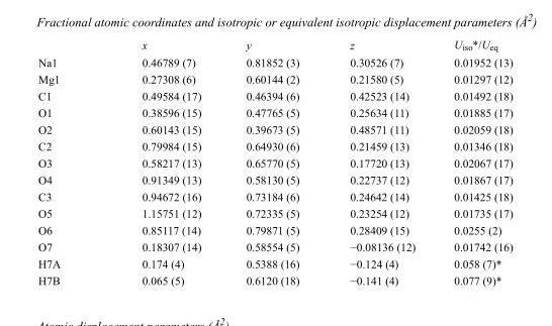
<table><thead><tr><td></td><td>x</td><td>y</td><td>z</td><td>U<sub>iso</sub>*/U<sub>eq</sub></td></tr></thead><tbody><tr><td>Na1</td><td>0.46789 (7)</td><td>0.81852 (3)</td><td>0.30526 (7)</td><td>0.01952 (13)</td></tr><tr><td>Mg1</td><td>0.27308 (6)</td><td>0.60144 (2)</td><td>0.21580 (5)</td><td>0.01297 (12)</td></tr><tr><td>C1</td><td>0.49584 (17)</td><td>0.46394 (6)</td><td>0.42523 (14)</td><td>0.01492 (18)</td></tr><tr><td>O1</td><td>0.38596 (15)</td><td>0.47765 (5)</td><td>0.25634 (11)</td><td>0.01885 (17)</td></tr><tr><td>O2</td><td>0.60143 (15)</td><td>0.39673 (5)</td><td>0.48571 (11)</td><td>0.02059 (18)</td></tr><tr><td>C2</td><td>0.79984 (15)</td><td>0.64930 (6)</td><td>0.21459 (13)</td><td>0.01346 (18)</td></tr><tr><td>O3</td><td>0.58217 (13)</td><td>0.65770 (5)</td><td>0.17720 (13)</td><td>0.02067 (17)</td></tr><tr><td>O4</td><td>0.91349 (13)</td><td>0.58130 (5)</td><td>0.22737 (12)</td><td>0.01867 (17)</td></tr><tr><td>C3</td><td>0.94672 (16)</td><td>0.73184 (6)</td><td>0.24642 (14)</td><td>0.01425 (18)</td></tr><tr><td>O5</td><td>1.15751 (12)</td><td>0.72335 (5)</td><td>0.23254 (12)</td><td>0.01735 (17)</td></tr><tr><td>O6</td><td>0.85117 (14)</td><td>0.79871 (5)</td><td>0.28409 (15)</td><td>0.0255 (2)</td></tr><tr><td>O7</td><td>0.18307 (14)</td><td>0.58554 (5)</td><td>−0.08136 (12)</td><td>0.01742 (16)</td></tr><tr><td>H7A</td><td>0.174 (4)</td><td>0.5388 (16)</td><td>−0.124 (4)</td><td>0.058 (7)*</td></tr><tr><td>H7B</td><td>0.065 (5)</td><td>0.6120 (18)</td><td>−0.141 (4)</td><td>0.077 (9)*</td></tr></tbody></table>